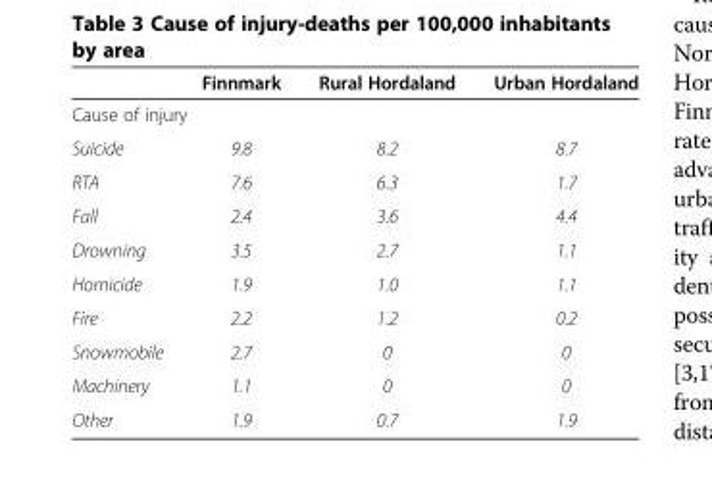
<table><thead><tr><td></td><td>Finnmark</td><td>Rural Hordaland</td><td>Urban Hordaland</td></tr></thead><tbody><tr><td colspan="4">Cause of injury</td></tr><tr><td>Suicide</td><td>9.8</td><td>8.2</td><td>8.7</td></tr><tr><td>RTA</td><td>7.6</td><td>6.3</td><td>1.7</td></tr><tr><td>Fall</td><td>2.4</td><td>3.6</td><td>4.4</td></tr><tr><td>Drowning</td><td>3.5</td><td>2.7</td><td>1.1</td></tr><tr><td>Homicide</td><td>1.9</td><td>1.0</td><td>1.1</td></tr><tr><td>Fire</td><td>2.2</td><td>1.2</td><td>0.2</td></tr><tr><td>Snowmobile</td><td>2.7</td><td>0</td><td>0</td></tr><tr><td>Machinery</td><td>1.1</td><td>0</td><td>0</td></tr><tr><td>Other</td><td>1.9</td><td>0.7</td><td>1.9</td></tr></tbody></table>